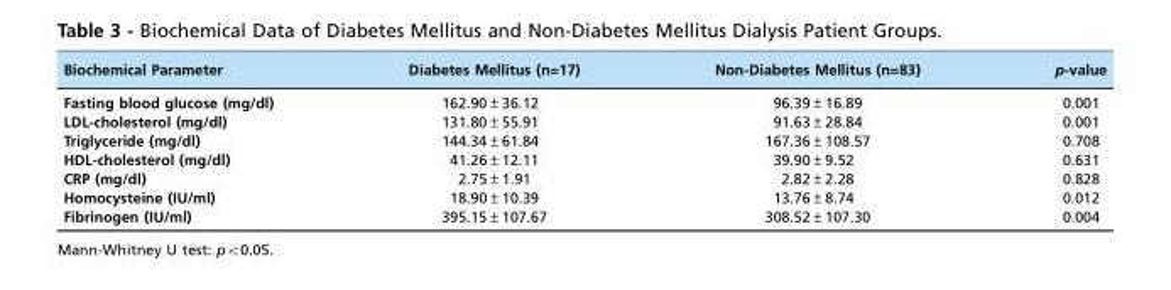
<table><thead><tr><td>Biochemical Parameter</td><td>Diabetes Mellitus (n=17)</td><td>Non-Diabetes Mellitus (n=83)</td><td>p-value</td></tr></thead><tbody><tr><td>Fasting blood glucose (mg/dl)</td><td>162.90±36.12</td><td>96.39±16.89</td><td>0.001</td></tr><tr><td>LDL-cholesterol (mg/dl)</td><td>131.80±55.91</td><td>91.63±28.84</td><td>0.001</td></tr><tr><td>Triglyceride (mg/dl)</td><td>144.34±61.84</td><td>167.36±108.57</td><td>0.708</td></tr><tr><td>HDL-cholesterol (mg/dl)</td><td>41.26±12.11</td><td>39.90±9.52</td><td>0.631</td></tr><tr><td>CRP (mg/dl)</td><td>2.75±1.91</td><td>2.82±2.28</td><td>0.828</td></tr><tr><td>Homocysteine (IU/ml)</td><td>18.90±10.39</td><td>13.76±8.74</td><td>0.012</td></tr><tr><td>Fibrinogen (IU/ml)</td><td>395.15±107.67</td><td>308.52±107.30</td><td>0.004</td></tr></tbody></table>